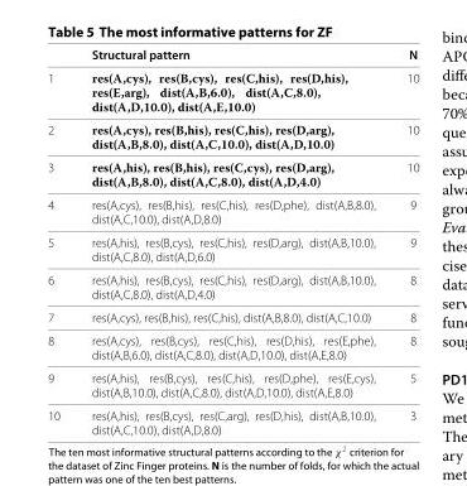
<table><thead><tr><td></td><td>Structural pattern</td><td>N</td></tr></thead><tbody><tr><td>1</td><td>res(A,cys), res(B,cys), res(C,his), res(D,his), res(E,arg), dist(A,B,6.0), dist(A,C,8.0), dist(A,D,10.0), dist(A,E,10.0)</td><td>10</td></tr><tr><td>2</td><td>res(A,cys), res(B,his), res(C,his), res(D,arg), dist(A,B,8.0), dist(A,C,10.0), dist(A,D,10.0)</td><td>10</td></tr><tr><td>3</td><td>res(A,his), res(B,his), res(C,cys), res(D,arg), dist(A,B,8.0), dist(A,C,8.0), dist(A,D,4.0)</td><td>10</td></tr><tr><td>4</td><td>res(A,cys), res(B,his), res(C,his), res(D,phe), dist(A,B,8.0), dist(A,C,10.0), dist(A,D,8.0)</td><td>9</td></tr><tr><td>5</td><td>res(A,his), res(B,cys), res(C,his), res(D,arg), dist(A,B,10.0), dist(A,C,8.0), dist(A,D,6.0)</td><td>9</td></tr><tr><td>6</td><td>res(A,his), res(B,cys), res(C,his), res(D,arg), dist(A,B,10.0), dist(A,C,8.0), dist(A,D,4.0)</td><td>8</td></tr><tr><td>7</td><td>res(A,cys), res(B,his), res(C,his), dist(A,B,8.0), dist(A,C,10.0)</td><td>8</td></tr><tr><td>8</td><td>res(A,cys), res(B,cys), res(C,his), res(D,his), res(E,phe), dist(A,B,6.0), dist(A,C,8.0), dist(A,D,10.0), dist(A,E,8.0)</td><td>8</td></tr><tr><td>9</td><td>res(A,his), res(B,cys), res(C,his), res(D,phe), res(E,cys), dist(A,B,10.0), dist(A,C,8.0), dist(A,D,10.0), dist(A,E,8.0)</td><td>5</td></tr><tr><td>10</td><td>res(A,his), res(B,cys), res(C,arg), res(D,his), dist(A,B,10.0), dist(A,C,10.0), dist(A,D,8.0)</td><td>3</td></tr></tbody></table>